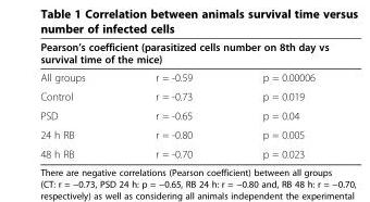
<table><thead><tr><td colspan="3">Pearson’s coefficient (parasitized cells number on 8th day vs survival time of the mice)</td></tr><tr><td>All groups</td><td>r = -0.59</td><td>p = 0.00006</td></tr></thead><tbody><tr><td>Control</td><td>r = -0.73</td><td>p = 0.019</td></tr><tr><td>PSD</td><td>r = -0.65</td><td>p = 0.04</td></tr><tr><td>24 h RB</td><td>r = -0.80</td><td>p = 0.005</td></tr><tr><td>48 h RB</td><td>r = -0.70</td><td>p = 0.023</td></tr></tbody></table>